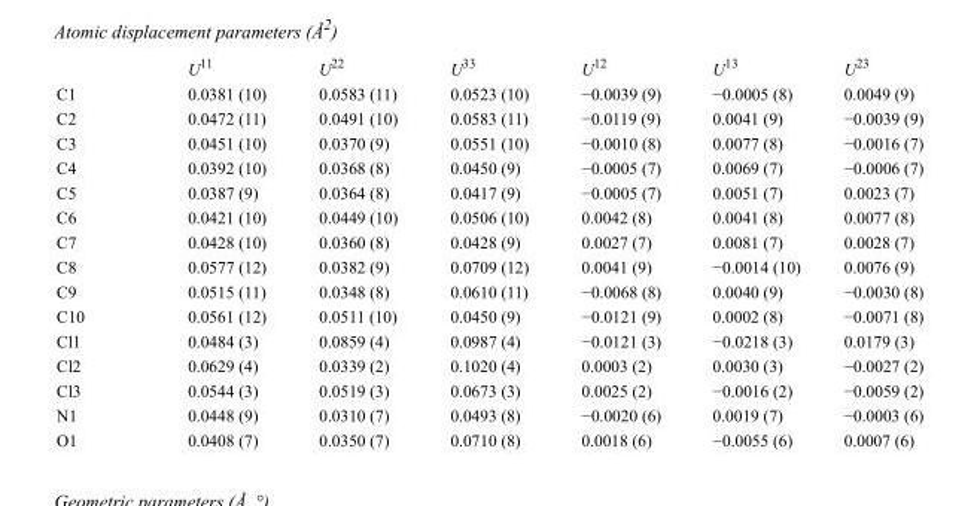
<table><thead><tr><td></td><td>U<sup>11</sup></td><td>U<sup>22</sup></td><td>U<sup>33</sup></td><td>U<sup>12</sup></td><td>U<sup>13</sup></td><td>U<sup>23</sup></td></tr></thead><tbody><tr><td>C1</td><td>0.0381 (10)</td><td>0.0583 (11)</td><td>0.0523 (10)</td><td>−0.0039 (9)</td><td>−0.0005 (8)</td><td>0.0049 (9)</td></tr><tr><td>C2</td><td>0.0472 (11)</td><td>0.0491 (10)</td><td>0.0583 (11)</td><td>−0.0119 (9)</td><td>0.0041 (9)</td><td>−0.0039 (9)</td></tr><tr><td>C3</td><td>0.0451 (10)</td><td>0.0370 (9)</td><td>0.0551 (10)</td><td>−0.0010 (8)</td><td>0.0077 (8)</td><td>−0.0016 (7)</td></tr><tr><td>C4</td><td>0.0392 (10)</td><td>0.0368 (8)</td><td>0.0450 (9)</td><td>−0.0005 (7)</td><td>0.0069 (7)</td><td>−0.0006 (7)</td></tr><tr><td>C5</td><td>0.0387 (9)</td><td>0.0364 (8)</td><td>0.0417 (9)</td><td>−0.0005 (7)</td><td>0.0051 (7)</td><td>0.0023 (7)</td></tr><tr><td>C6</td><td>0.0421 (10)</td><td>0.0449 (10)</td><td>0.0506 (10)</td><td>0.0042 (8)</td><td>0.0041 (8)</td><td>0.0077 (8)</td></tr><tr><td>C7</td><td>0.0428 (10)</td><td>0.0360 (8)</td><td>0.0428 (9)</td><td>0.0027 (7)</td><td>0.0081 (7)</td><td>0.0028 (7)</td></tr><tr><td>C8</td><td>0.0577 (12)</td><td>0.0382 (9)</td><td>0.0709 (12)</td><td>0.0041 (9)</td><td>−0.0014 (10)</td><td>0.0076 (9)</td></tr><tr><td>C9</td><td>0.0515 (11)</td><td>0.0348 (8)</td><td>0.0610 (11)</td><td>−0.0068 (8)</td><td>0.0040 (9)</td><td>−0.0030 (8)</td></tr><tr><td>C10</td><td>0.0561 (12)</td><td>0.0511 (10)</td><td>0.0450 (9)</td><td>−0.0121 (9)</td><td>0.0002 (8)</td><td>−0.0071 (8)</td></tr><tr><td>Cl1</td><td>0.0484 (3)</td><td>0.0859 (4)</td><td>0.0987 (4)</td><td>−0.0121 (3)</td><td>−0.0218 (3)</td><td>0.0179 (3)</td></tr><tr><td>Cl2</td><td>0.0629 (4)</td><td>0.0339 (2)</td><td>0.1020 (4)</td><td>0.0003 (2)</td><td>0.0030 (3)</td><td>−0.0027 (2)</td></tr><tr><td>Cl3</td><td>0.0544 (3)</td><td>0.0519 (3)</td><td>0.0673 (3)</td><td>0.0025 (2)</td><td>−0.0016 (2)</td><td>−0.0059 (2)</td></tr><tr><td>N1</td><td>0.0448 (9)</td><td>0.0310 (7)</td><td>0.0493 (8)</td><td>−0.0020 (6)</td><td>0.0019 (7)</td><td>−0.0003 (6)</td></tr><tr><td>O1</td><td>0.0408 (7)</td><td>0.0350 (7)</td><td>0.0710 (8)</td><td>0.0018 (6)</td><td>−0.0055 (6)</td><td>0.0007 (6)</td></tr></tbody></table>